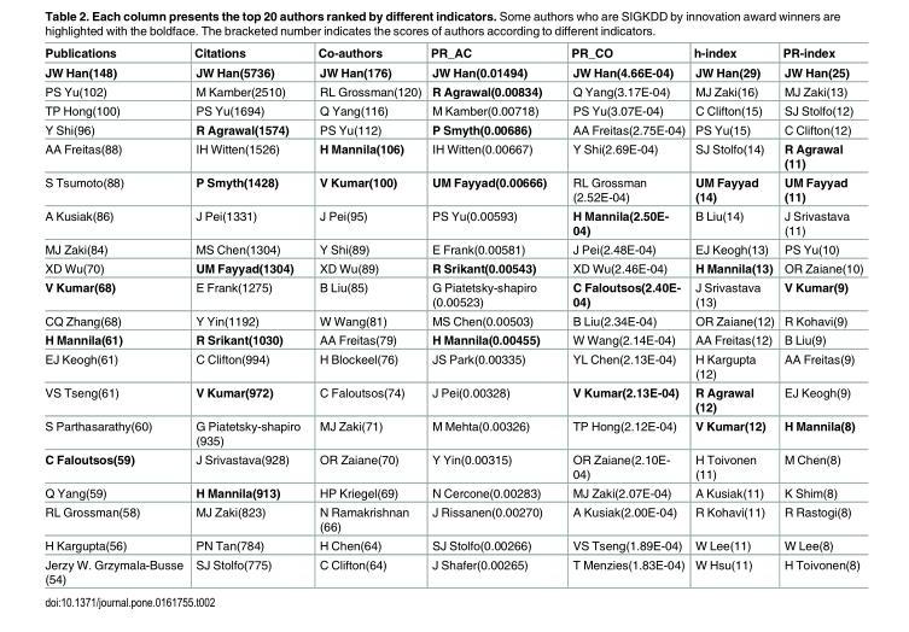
<table><thead><tr><td>Publications</td><td>Citations</td><td>Co-authors</td><td>PR_AC</td><td>PR_CO</td><td>h-index</td><td>PR-index</td></tr></thead><tbody><tr><td>JW Han(148)</td><td>JW Han(5736)</td><td>JW Han(176)</td><td>JW Han(0.01494)</td><td>JW Han(4.66E-04)</td><td>JW Han(29)</td><td>JW Han(25)</td></tr><tr><td>PS Yu(102)</td><td>M Kamber(2510)</td><td>RL Grossman(120)</td><td>R Agrawal(0.00834)</td><td>Q Yang(3.17E-04)</td><td>MJ Zaki(16)</td><td>MJ Zaki(13)</td></tr><tr><td>TP Hong(100)</td><td>PS Yu(1694)</td><td>Q Yang(116)</td><td>M Kamber(0.00718)</td><td>PS Yu(3.07E-04)</td><td>C Clifton(15)</td><td>SJ Stolfo(12)</td></tr><tr><td>Y Shi(96)</td><td>R Agrawal(1574)</td><td>PS Yu(112)</td><td>P Smyth(0.00686)</td><td>AA Freitas(2.75E-04)</td><td>PS Yu(15)</td><td>C Clifton(12)</td></tr><tr><td>AA Freitas(88)</td><td>IH Witten(1526)</td><td>H Mannila(106)</td><td>IH Witten(0.00667)</td><td>Y Shi(2.69E-04)</td><td>SJ Stolfo(14)</td><td>R Agrawal (11)</td></tr><tr><td>S Tsumoto(88)</td><td>P Smyth(1428)</td><td>V Kumar(100)</td><td>UM Fayyad(0.00666)</td><td>RL Grossman (2.52E-04)</td><td>UM Fayyad (14)</td><td>UM Fayyad (11)</td></tr><tr><td>A Kusiak(86)</td><td>J Pei(1331)</td><td>J Pei(95)</td><td>PS Yu(0.00593)</td><td>H Mannila(2.50E- 04)</td><td>B Liu(14)</td><td>J Srivastava (11)</td></tr><tr><td>MJ Zaki(84)</td><td>MS Chen(1304)</td><td>Y Shi(89)</td><td>E Frank(0.00581)</td><td>J Pei(2.48E-04)</td><td>EJ Keogh(13)</td><td>PS Yu(10)</td></tr><tr><td>XD Wu(70)</td><td>UM Fayyad(1304)</td><td>XD Wu(89)</td><td>R Srikant(0.00543)</td><td>XD Wu(2.46E-04)</td><td>H Mannila(13)</td><td>OR Zaiane(10)</td></tr><tr><td>V Kumar(68)</td><td>E Frank(1275)</td><td>B Liu(85)</td><td>G Piatetsky-shapiro (0.00523)</td><td>C Faloutsos(2.40E- 04)</td><td>J Srivastava (13)</td><td>V Kumar(9)</td></tr><tr><td>CQ Zhang(68)</td><td>Y Yin(1192)</td><td>W Wang(81)</td><td>MS Chen(0.00503)</td><td>B Liu(2.34E-04)</td><td>OR Zaiane(12)</td><td>R Kohavi(9)</td></tr><tr><td>H Mannila(61)</td><td>R Srikant(1030)</td><td>AA Freitas(79)</td><td>H Mannila(0.00455)</td><td>W Wang(2.14E-04)</td><td>AA Freitas(12)</td><td>B Liu(9)</td></tr><tr><td>EJ Keogh(61)</td><td>C Clifton(994)</td><td>H Blockeel(76)</td><td>JS Park(0.00335)</td><td>YL Chen(2.13E-04)</td><td>H Kargupta (12)</td><td>AA Freitas(9)</td></tr><tr><td>VS Tseng(61)</td><td>V Kumar(972)</td><td>C Faloutsos(74)</td><td>J Pei(0.00328)</td><td>V Kumar(2.13E-04)</td><td>R Agrawal (12)</td><td>EJ Keogh(9)</td></tr><tr><td>S Parthasarathy(60)</td><td>G Piatetsky-shapiro (935)</td><td>MJ Zaki(71)</td><td>M Mehta(0.00326)</td><td>TP Hong(2.12E-04)</td><td>V Kumar(12)</td><td>H Mannila(8)</td></tr><tr><td>C Faloutsos(59)</td><td>J Srivastava(928)</td><td>OR Zaiane(70)</td><td>Y Yin(0.00315)</td><td>OR Zaiane(2.10E- 04)</td><td>H Toivonen (11)</td><td>M Chen(8)</td></tr><tr><td>Q Yang(59)</td><td>H Mannila(913)</td><td>HP Kriegel(69)</td><td>N Cercone(0.00283)</td><td>MJ Zaki(2.07E-04)</td><td>A Kusiak(11)</td><td>K Shim(8)</td></tr><tr><td>RL Grossman(58)</td><td>MJ Zaki(823)</td><td>N Ramakrishnan (66)</td><td>J Rissanen(0.00270)</td><td>A Kusiak(2.00E-04)</td><td>R Kohavi(11)</td><td>R Rastogi(8)</td></tr><tr><td>H Kargupta(56)</td><td>PN Tan(784)</td><td>H Chen(64)</td><td>SJ Stolfo(0.00266)</td><td>VS Tseng(1.89E-04)</td><td>W Lee(11)</td><td>W Lee(8)</td></tr><tr><td>Jerzy W. Grzymala-Busse (54)</td><td>SJ Stolfo(775)</td><td>C Clifton(64)</td><td>J Shafer(0.00265)</td><td>T Menzies(1.83E-04)</td><td>W Hsu(11)</td><td>H Toivonen(8)</td></tr></tbody></table>